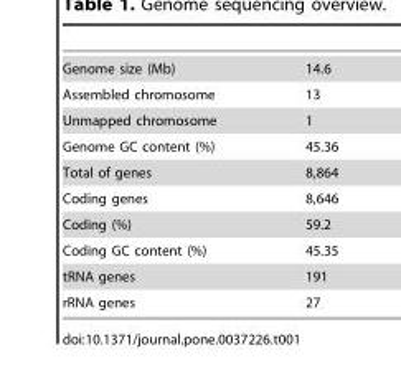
<table><tbody><tr><td>Genome size (Mb)</td><td>14.6</td></tr><tr><td>Assembled chromosome</td><td>13</td></tr><tr><td>Unmapped chromosome</td><td>1</td></tr><tr><td>Genome GC content (%)</td><td>45.36</td></tr><tr><td>Total of genes</td><td>8,864</td></tr><tr><td>Coding genes</td><td>8,646</td></tr><tr><td>Coding (%)</td><td>59.2</td></tr><tr><td>Coding GC content (%)</td><td>45.35</td></tr><tr><td>tRNA genes</td><td>191</td></tr><tr><td>rRNA genes</td><td>27</td></tr></tbody></table>